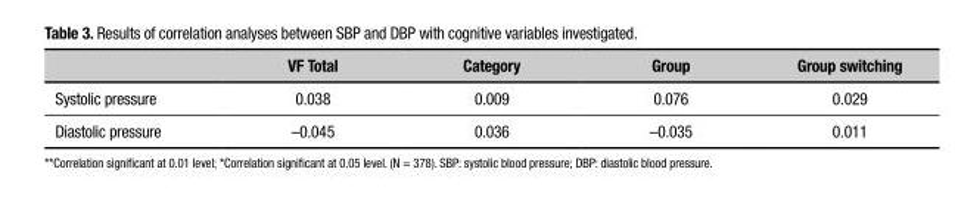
<table><thead><tr><td></td><td>VF Total</td><td>Category</td><td>Group</td><td>Group switching</td></tr></thead><tbody><tr><td>Systolic pressure</td><td>0.038</td><td>0.009</td><td>0.076</td><td>0.029</td></tr><tr><td>Diastolic pressure</td><td>–0.045</td><td>0.036</td><td>–0.035</td><td>0.011</td></tr></tbody></table>